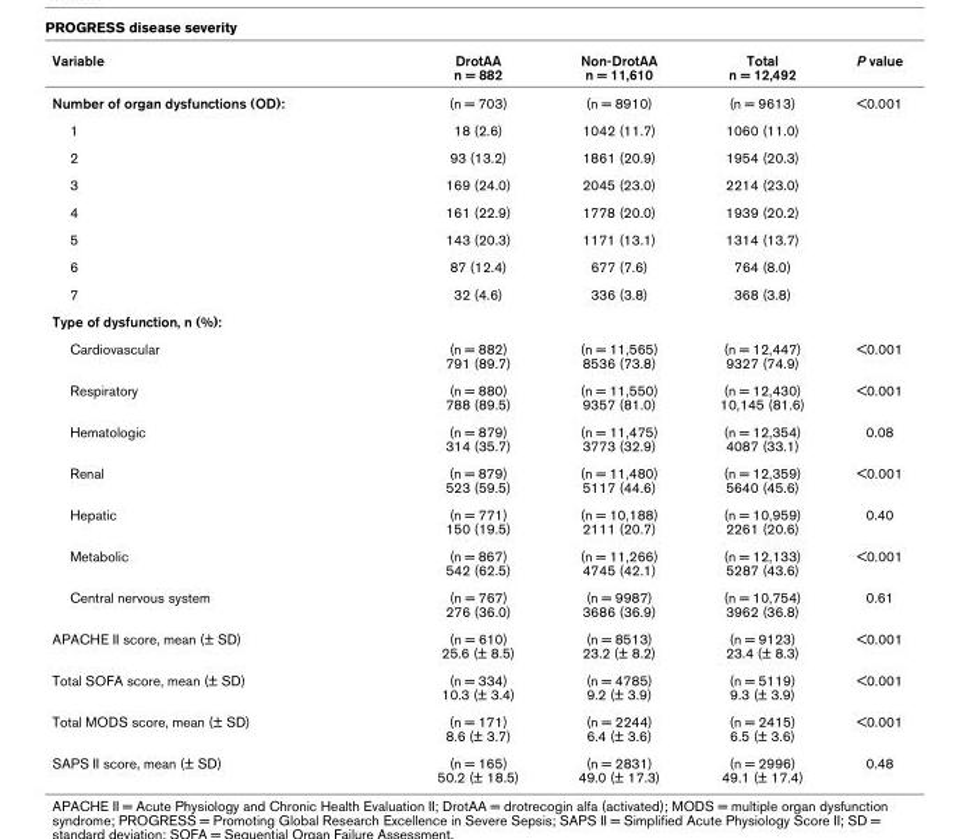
<table><thead><tr><td>Variable</td><td>DrotAA n = 882</td><td>Non-DrotAA n = 11,610</td><td>Total n = 12,492</td><td>P value</td></tr></thead><tbody><tr><td>Number of organ dysfunctions (OD):</td><td>(n = 703)</td><td>(n = 8910)</td><td>(n = 9613)</td><td>&lt;0.001</td></tr><tr><td>1</td><td>18 (2.6)</td><td>1042 (11.7)</td><td>1060 (11.0)</td><td></td></tr><tr><td>2</td><td>93 (13.2)</td><td>1861 (20.9)</td><td>1954 (20.3)</td><td></td></tr><tr><td>3</td><td>169 (24.0)</td><td>2045 (23.0)</td><td>2214 (23.0)</td><td></td></tr><tr><td>4</td><td>161 (22.9)</td><td>1778 (20.0)</td><td>1939 (20.2)</td><td></td></tr><tr><td>5</td><td>143 (20.3)</td><td>1171 (13.1)</td><td>1314 (13.7)</td><td></td></tr><tr><td>6</td><td>87 (12.4)</td><td>677 (7.6)</td><td>764 (8.0)</td><td></td></tr><tr><td>7</td><td>32 (4.6)</td><td>336 (3.8)</td><td>368 (3.8)</td><td></td></tr><tr><td colspan="5">Type of dysfunction, n (%):</td></tr><tr><td>Cardiovascular</td><td>(n = 882) 791 (89.7)</td><td>(n = 11,565) 8536 (73.8)</td><td>(n = 12,447) 9327 (74.9)</td><td>&lt;0.001</td></tr><tr><td>Respiratory</td><td>(n = 880) 788 (89.5)</td><td>(n = 11,550) 9357 (81.0)</td><td>(n = 12,430) 10,145 (81.6)</td><td>&lt;0.001</td></tr><tr><td>Hematologic</td><td>(n = 879) 314 (35.7)</td><td>(n = 11,475) 3773 (32.9)</td><td>(n = 12,354) 4087 (33.1)</td><td>0.08</td></tr><tr><td>Renal</td><td>(n = 879) 523 (59.5)</td><td>(n = 11,480) 5117 (44.6)</td><td>(n = 12,359) 5640 (45.6)</td><td>&lt;0.001</td></tr><tr><td>Hepatic</td><td>(n = 771) 150 (19.5)</td><td>(n = 10,188) 2111 (20.7)</td><td>(n = 10,959) 2261 (20.6)</td><td>0.40</td></tr><tr><td>Metabolic</td><td>(n = 867) 542 (62.5)</td><td>(n = 11,266) 4745 (42.1)</td><td>(n = 12,133) 5287 (43.6)</td><td>&lt;0.001</td></tr><tr><td>Central nervous system</td><td>(n = 767) 276 (36.0)</td><td>(n = 9987) 3686 (36.9)</td><td>(n = 10,754) 3962 (36.8)</td><td>0.61</td></tr><tr><td>APACHE II score, mean (± SD)</td><td>(n = 610) 25.6 (± 8.5)</td><td>(n = 8513) 23.2 (± 8.2)</td><td>(n = 9123) 23.4 (± 8.3)</td><td>&lt;0.001</td></tr><tr><td>Total SOFA score, mean (± SD)</td><td>(n = 334) 10.3 (± 3.4)</td><td>(n = 4785) 9.2 (± 3.9)</td><td>(n = 5119) 9.3 (± 3.9)</td><td>&lt;0.001</td></tr><tr><td>Total MODS score, mean (± SD)</td><td>(n = 171) 8.6 (± 3.7)</td><td>(n = 2244) 6.4 (± 3.6)</td><td>(n = 2415) 6.5 (± 3.6)</td><td>&lt;0.001</td></tr><tr><td>SAPS II score, mean (± SD)</td><td>(n = 165) 50.2 (± 18.5)</td><td>(n = 2831) 49.0 (± 17.3)</td><td>(n = 2996) 49.1 (± 17.4)</td><td>0.48</td></tr></tbody></table>